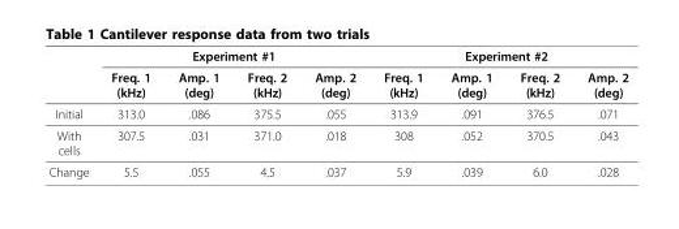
<table><thead><tr><td rowspan="2"></td><td colspan="4">Experiment #1</td><td colspan="4">Experiment #2</td></tr><tr><td>Freq. 1 (kHz)</td><td>Amp. 1 (deg)</td><td>Freq. 2 (kHz)</td><td>Amp. 2 (deg)</td><td>Freq. 1 (kHz)</td><td>Amp. 1 (deg)</td><td>Freq. 2 (kHz)</td><td>Amp. 2 (deg)</td></tr></thead><tbody><tr><td>Initial</td><td>313.0</td><td>.086</td><td>375.5</td><td>.055</td><td>313.9</td><td>.091</td><td>376.5</td><td>.071</td></tr><tr><td>With cells</td><td>307.5</td><td>.031</td><td>371.0</td><td>.018</td><td>308</td><td>.052</td><td>370.5</td><td>.043</td></tr><tr><td>Change</td><td>5.5</td><td>.055</td><td>4.5</td><td>.037</td><td>5.9</td><td>.039</td><td>6.0</td><td>.028</td></tr></tbody></table>